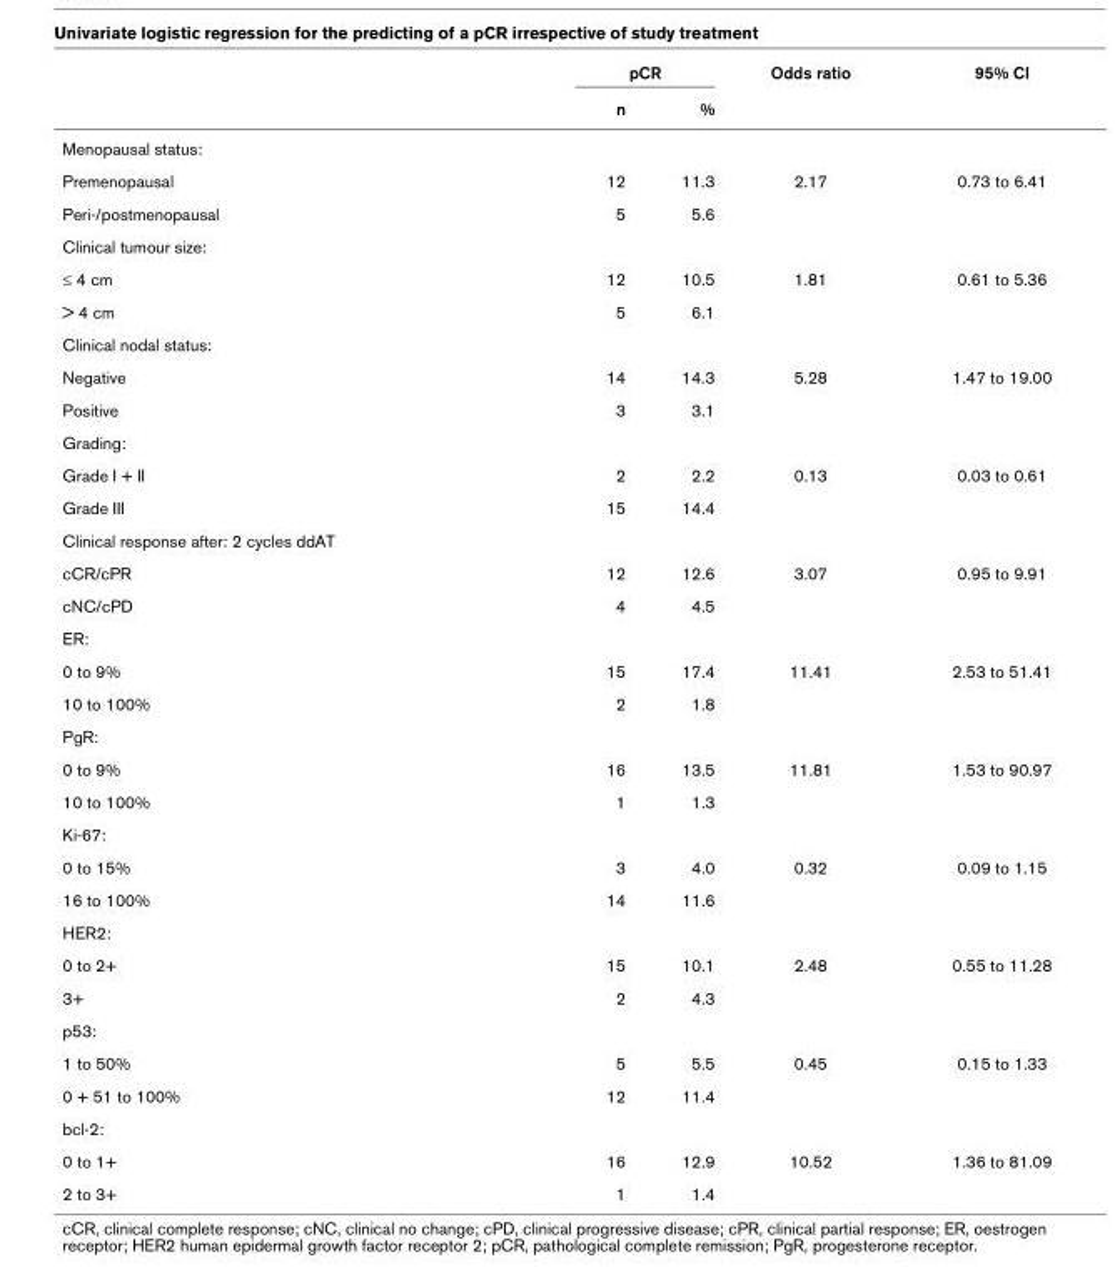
<table><thead><tr><td rowspan="2"></td><td colspan="2">pCR</td><td rowspan="2">Odds ratio</td><td rowspan="2">95% CI</td></tr><tr><td>n</td><td>%</td></tr></thead><tbody><tr><td colspan="5">Menopausal status:</td></tr><tr><td>Premenopausal</td><td>12</td><td>11.3</td><td>2.17</td><td>0.73 to 6.41</td></tr><tr><td>Peri-/postmenopausal</td><td>5</td><td>5.6</td><td></td><td></td></tr><tr><td colspan="5">Clinical tumour size:</td></tr><tr><td>≤ 4 cm</td><td>12</td><td>10.5</td><td>1.81</td><td>0.61 to 5.36</td></tr><tr><td>&gt; 4 cm</td><td>5</td><td>6.1</td><td></td><td></td></tr><tr><td colspan="5">Clinical nodal status:</td></tr><tr><td>Negative</td><td>14</td><td>14.3</td><td>5.28</td><td>1.47 to 19.00</td></tr><tr><td>Positive</td><td>3</td><td>3.1</td><td></td><td></td></tr><tr><td colspan="5">Grading:</td></tr><tr><td>Grade I + II</td><td>2</td><td>2.2</td><td>0.13</td><td>0.03 to 0.61</td></tr><tr><td>Grade III</td><td>15</td><td>14.4</td><td></td><td></td></tr><tr><td colspan="5">Clinical response after: 2 cycles ddAT</td></tr><tr><td>cCR/cPR</td><td>12</td><td>12.6</td><td>3.07</td><td>0.95 to 9.91</td></tr><tr><td>cNC/cPD</td><td>4</td><td>4.5</td><td></td><td></td></tr><tr><td colspan="5">ER:</td></tr><tr><td>0 to 9%</td><td>15</td><td>17.4</td><td>11.41</td><td>2.53 to 51.41</td></tr><tr><td>10 to 100%</td><td>2</td><td>1.8</td><td></td><td></td></tr><tr><td colspan="5">PgR:</td></tr><tr><td>0 to 9%</td><td>16</td><td>13.5</td><td>11.81</td><td>1.53 to 90.97</td></tr><tr><td>10 to 100%</td><td>1</td><td>1.3</td><td></td><td></td></tr><tr><td colspan="5">Ki-67:</td></tr><tr><td>0 to 15%</td><td>3</td><td>4.0</td><td>0.32</td><td>0.09 to 1.15</td></tr><tr><td>16 to 100%</td><td>14</td><td>11.6</td><td></td><td></td></tr><tr><td colspan="5">HER2:</td></tr><tr><td>0 to 2+</td><td>15</td><td>10.1</td><td>2.48</td><td>0.55 to 11.28</td></tr><tr><td>3+</td><td>2</td><td>4.3</td><td></td><td></td></tr><tr><td colspan="5">p53:</td></tr><tr><td>1 to 50%</td><td>5</td><td>5.5</td><td>0.45</td><td>0.15 to 1.33</td></tr><tr><td>0 + 51 to 100%</td><td>12</td><td>11.4</td><td></td><td></td></tr><tr><td colspan="5">bcl-2:</td></tr><tr><td>0 to 1+</td><td>16</td><td>12.9</td><td>10.52</td><td>1.36 to 81.09</td></tr><tr><td>2 to 3+</td><td>1</td><td>1.4</td><td></td><td></td></tr></tbody></table>